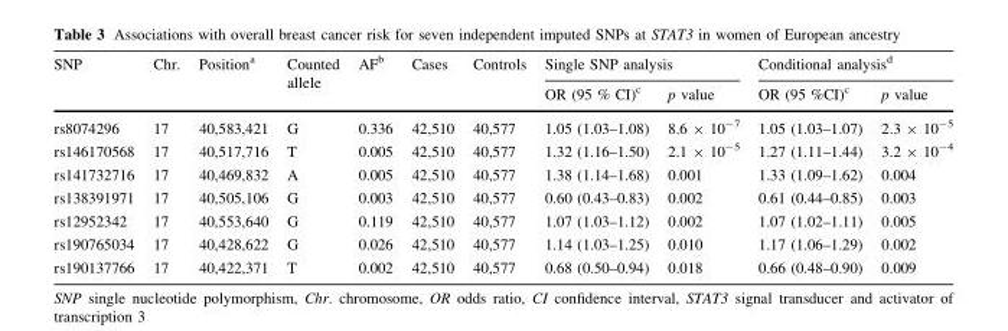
<table><thead><tr><td rowspan="2">SNP</td><td rowspan="2">Chr.</td><td rowspan="2">Position<sup>a</sup></td><td rowspan="2">Counted allele</td><td rowspan="2">AF<sup>b</sup></td><td rowspan="2">Cases</td><td rowspan="2">Controls</td><td colspan="2">Single SNP analysis</td><td colspan="2">Conditional analysis<sup>d</sup></td></tr><tr><td>OR (95 % CI)<sup>c</sup></td><td>p value</td><td>OR (95 %CI)<sup>c</sup></td><td>p value</td></tr></thead><tbody><tr><td>rs8074296</td><td>17</td><td>40,583,421</td><td>G</td><td>0.336</td><td>42,510</td><td>40,577</td><td>1.05 (1.03–1.08)</td><td>8.6 × 10<sup>-7</sup></td><td>1.05 (1.03–1.07)</td><td>2.3 × 10<sup>-5</sup></td></tr><tr><td>rs146170568</td><td>17</td><td>40,517,716</td><td>T</td><td>0.005</td><td>42,510</td><td>40,577</td><td>1.32 (1.16–1.50)</td><td>2.1 × 10<sup>-5</sup></td><td>1.27 (1.11–1.44)</td><td>3.2 × 10<sup>-4</sup></td></tr><tr><td>rs141732716</td><td>17</td><td>40,469,832</td><td>A</td><td>0.005</td><td>42,510</td><td>40,577</td><td>1.38 (1.14–1.68)</td><td>0.001</td><td>1.33 (1.09–1.62)</td><td>0.004</td></tr><tr><td>rs138391971</td><td>17</td><td>40,505,106</td><td>G</td><td>0.003</td><td>42,510</td><td>40,577</td><td>0.60 (0.43–0.83)</td><td>0.002</td><td>0.61 (0.44–0.85)</td><td>0.003</td></tr><tr><td>rs12952342</td><td>17</td><td>40,553,640</td><td>G</td><td>0.119</td><td>42,510</td><td>40,577</td><td>1.07 (1.03–1.12)</td><td>0.002</td><td>1.07 (1.02–1.11)</td><td>0.005</td></tr><tr><td>rs190765034</td><td>17</td><td>40,428,622</td><td>G</td><td>0.026</td><td>42,510</td><td>40,577</td><td>1.14 (1.03–1.25)</td><td>0.010</td><td>1.17 (1.06–1.29)</td><td>0.002</td></tr><tr><td>rs190137766</td><td>17</td><td>40,422,371</td><td>T</td><td>0.002</td><td>42,510</td><td>40,577</td><td>0.68 (0.50–0.94)</td><td>0.018</td><td>0.66 (0.48–0.90)</td><td>0.009</td></tr></tbody></table>